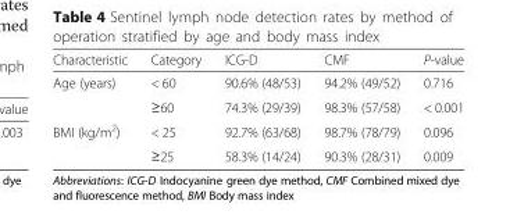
<table><thead><tr><td>Characteristic</td><td>Category</td><td>ICG-D</td><td>CMF</td><td>P-value</td></tr></thead><tbody><tr><td rowspan="2">Age (years)</td><td>&lt; 60</td><td>90.6% (48/53)</td><td>94.2% (49/52)</td><td>0.716</td></tr><tr><td>≥60</td><td>74.3% (29/39)</td><td>98.3% (57/58)</td><td>&lt; 0.001</td></tr><tr><td rowspan="2">BMI (kg/m<sup>2</sup>)</td><td>&lt; 25</td><td>92.7% (63/68)</td><td>98.7% (78/79)</td><td>0.096</td></tr><tr><td>≥25</td><td>58.3% (14/24)</td><td>90.3% (28/31)</td><td>0.009</td></tr></tbody></table>